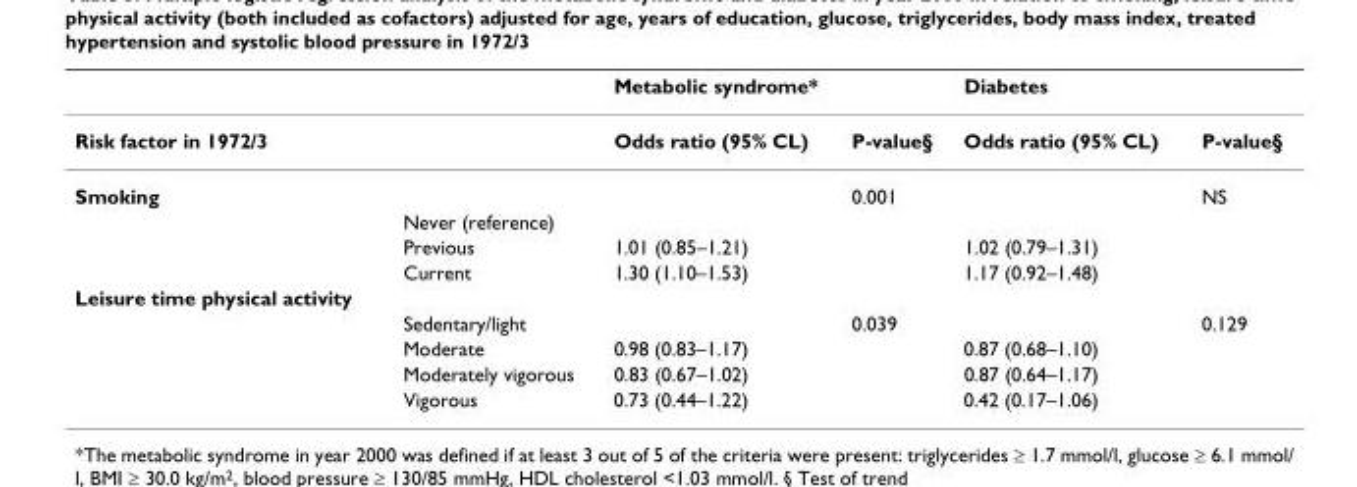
<table><thead><tr><td rowspan="2">Risk factor in 1972/3</td><td rowspan="2"></td><td colspan="2">Metabolic syndrome*</td><td colspan="2">Diabetes</td></tr><tr><td>Odds ratio (95% CL)</td><td>P-value§</td><td>Odds ratio (95% CL)</td><td>P-value§</td></tr></thead><tbody><tr><td rowspan="4">Smoking</td><td></td><td></td><td>0.001</td><td></td><td>NS</td></tr><tr><td>Never (reference)</td><td></td><td></td><td></td><td></td></tr><tr><td>Previous</td><td>1.01 (0.85–1.21)</td><td></td><td>1.02 (0.79–1.31)</td><td></td></tr><tr><td>Current</td><td>1.30 (1.10–1.53)</td><td></td><td>1.17 (0.92–1.48)</td><td></td></tr><tr><td colspan="6">Leisure time physical activity</td></tr><tr><td></td><td>Sedentary/light</td><td></td><td>0.039</td><td></td><td>0.129</td></tr><tr><td></td><td>Moderate</td><td>0.98 (0.83–1.17)</td><td></td><td>0.87 (0.68–1.10)</td><td></td></tr><tr><td></td><td>Moderately vigorous</td><td>0.83 (0.67–1.02)</td><td></td><td>0.87 (0.64–1.17)</td><td></td></tr><tr><td></td><td>Vigorous</td><td>0.73 (0.44–1.22)</td><td></td><td>0.42 (0.17–1.06)</td><td></td></tr></tbody></table>